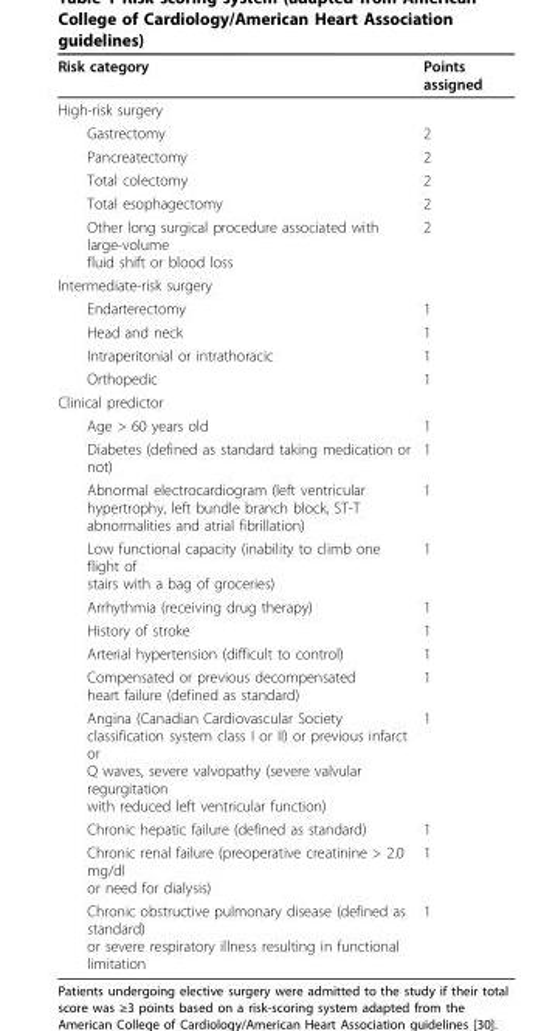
<table><thead><tr><td>Risk category</td><td>Points assigned</td></tr></thead><tbody><tr><td colspan="2">High-risk surgery</td></tr><tr><td>Gastrectomy</td><td>2</td></tr><tr><td>Pancreatectomy</td><td>2</td></tr><tr><td>Total colectomy</td><td>2</td></tr><tr><td>Total esophagectomy</td><td>2</td></tr><tr><td>Other long surgical procedure associated with large-volume fluid shift or blood loss</td><td>2</td></tr><tr><td colspan="2">Intermediate-risk surgery</td></tr><tr><td>Endarterectomy</td><td>1</td></tr><tr><td>Head and neck</td><td>1</td></tr><tr><td>Intraperitonial or intrathoracic</td><td>1</td></tr><tr><td>Orthopedic</td><td>1</td></tr><tr><td colspan="2">Clinical predictor</td></tr><tr><td>Age &gt; 60 years old</td><td>1</td></tr><tr><td>Diabetes (defined as standard taking medication or not)</td><td>1</td></tr><tr><td>Abnormal electrocardiogram (left ventricular hypertrophy, left bundle branch block, ST-T abnormalities and atrial fibrillation)</td><td>1</td></tr><tr><td>Low functional capacity (inability to climb one flight of stairs with a bag of groceries)</td><td>1</td></tr><tr><td>Arrhythmia (receiving drug therapy)</td><td>1</td></tr><tr><td>History of stroke</td><td>1</td></tr><tr><td>Arterial hypertension (difficult to control)</td><td>1</td></tr><tr><td>Compensated or previous decompensated heart failure (defined as standard)</td><td>1</td></tr><tr><td>Angina (Canadian Cardiovascular Society classification system class I or II) or previous infarct or Q waves, severe valvopathy (severe valvular regurgitation with reduced left ventricular function)</td><td>1</td></tr><tr><td>Chronic hepatic failure (defined as standard)</td><td>1</td></tr><tr><td>Chronic renal failure (preoperative creatinine &gt; 2.0 mg/dl or need for dialysis)</td><td>1</td></tr><tr><td>Chronic obstructive pulmonary disease (defined as standard) or severe respiratory illness resulting in functional limitation</td><td>1</td></tr></tbody></table>